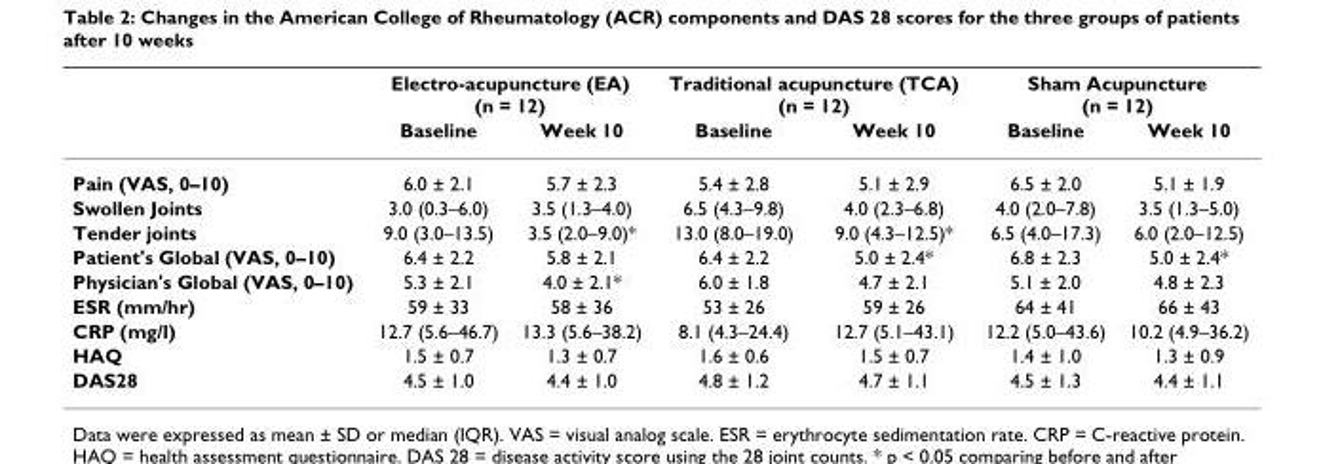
<table><thead><tr><td rowspan="2"></td><td colspan="2">Electro-acupuncture (EA) (n = 12)</td><td colspan="2">Traditional acupuncture (TCA) (n = 12)</td><td colspan="2">Sham Acupuncture (n = 12)</td></tr><tr><td>Baseline</td><td>Week 10</td><td>Baseline</td><td>Week 10</td><td>Baseline</td><td>Week 10</td></tr></thead><tbody><tr><td>Pain (VAS, 0–10)</td><td>6.0 ± 2.1</td><td>5.7 ± 2.3</td><td>5.4 ± 2.8</td><td>5.1 ± 2.9</td><td>6.5 ± 2.0</td><td>5.1 ± 1.9</td></tr><tr><td>Swollen Joints</td><td>3.0 (0.3–6.0)</td><td>3.5 (1.3–4.0)</td><td>6.5 (4.3–9.8)</td><td>4.0 (2.3–6.8)</td><td>4.0 (2.0–7.8)</td><td>3.5 (1.3–5.0)</td></tr><tr><td>Tender joints</td><td>9.0 (3.0–13.5)</td><td>3.5 (2.0–9.0)*</td><td>13.0 (8.0–19.0)</td><td>9.0 (4.3–12.5)*</td><td>6.5 (4.0–17.3)</td><td>6.0 (2.0–12.5)</td></tr><tr><td>Patient&#x27;s Global (VAS, 0–10)</td><td>6.4 ± 2.2</td><td>5.8 ± 2.1</td><td>6.4 ± 2.2</td><td>5.0 ± 2.4*</td><td>6.8 ± 2.3</td><td>5.0 ± 2.4*</td></tr><tr><td>Physician&#x27;s Global (VAS, 0–10)</td><td>5.3 ± 2.1</td><td>4.0 ± 2.1*</td><td>6.0 ± 1.8</td><td>4.7 ± 2.1</td><td>5.1 ± 2.0</td><td>4.8 ± 2.3</td></tr><tr><td>ESR (mm/hr)</td><td>59 ± 33</td><td>58 ± 36</td><td>53 ± 26</td><td>59 ± 26</td><td>64 ± 41</td><td>66 ± 43</td></tr><tr><td>CRP (mg/l)</td><td>12.7 (5.6–46.7)</td><td>13.3 (5.6–38.2)</td><td>8.1 (4.3–24.4)</td><td>12.7 (5.1–43.1)</td><td>12.2 (5.0–43.6)</td><td>10.2 (4.9–36.2)</td></tr><tr><td>HAQ</td><td>1.5 ± 0.7</td><td>1.3 ± 0.7</td><td>1.6 ± 0.6</td><td>1.5 ± 0.7</td><td>1.4 ± 1.0</td><td>1.3 ± 0.9</td></tr><tr><td>DAS28</td><td>4.5 ± 1.0</td><td>4.4 ± 1.0</td><td>4.8 ± 1.2</td><td>4.7 ± 1.1</td><td>4.5 ± 1.3</td><td>4.4 ± 1.1</td></tr></tbody></table>